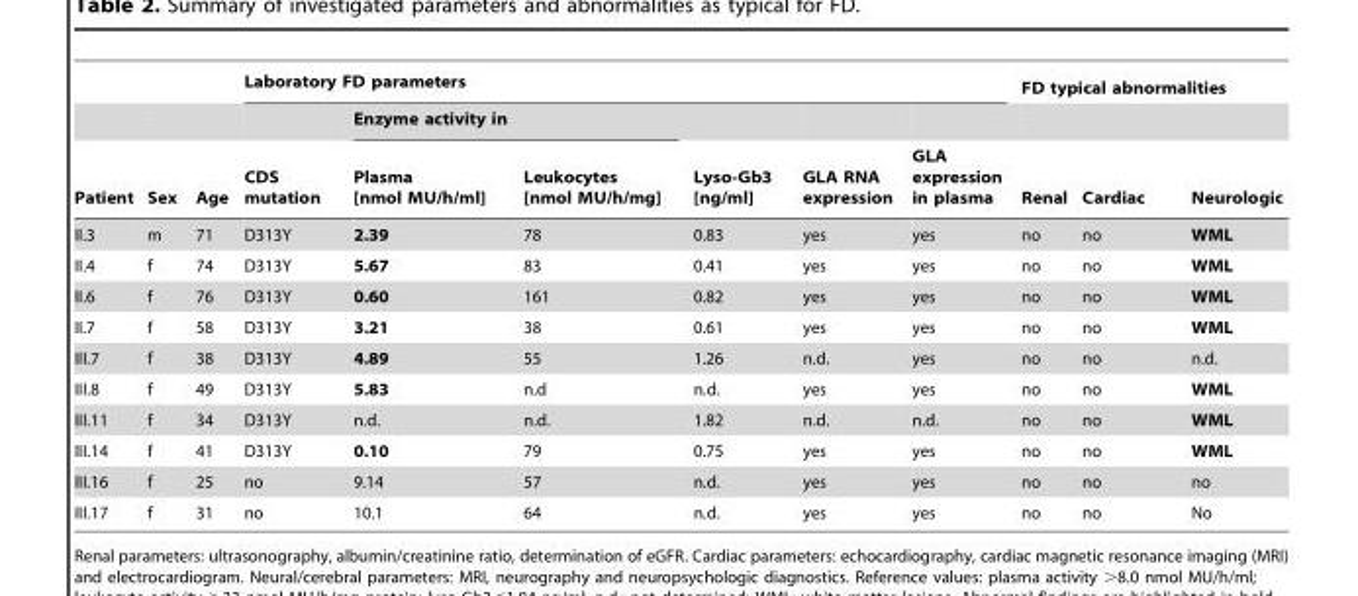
<table><thead><tr><td rowspan="3">Patient</td><td rowspan="3">Sex</td><td rowspan="3">Age</td><td colspan="6">Laboratory FD parameters</td><td colspan="3">FD typical abnormalities</td></tr><tr><td rowspan="2">CDS mutation</td><td colspan="2">Enzyme activity in</td><td rowspan="2">Lyso-Gb3 [ng/ml]</td><td rowspan="2">GLA RNA expression</td><td rowspan="2">GLA expression in plasma</td><td rowspan="2">Renal</td><td rowspan="2">Cardiac</td><td rowspan="2">Neurologic</td></tr><tr><td>Plasma [nmol MU/h/ml]</td><td>Leukocytes [nmol MU/h/mg]</td></tr></thead><tbody><tr><td>II.3</td><td>m</td><td>71</td><td>D313Y</td><td>2.39</td><td>78</td><td>0.83</td><td>yes</td><td>yes</td><td>no</td><td>no</td><td>WML</td></tr><tr><td>II.4</td><td>f</td><td>74</td><td>D313Y</td><td>5.67</td><td>83</td><td>0.41</td><td>yes</td><td>yes</td><td>no</td><td>no</td><td>WML</td></tr><tr><td>II.6</td><td>f</td><td>76</td><td>D313Y</td><td>0.60</td><td>161</td><td>0.82</td><td>yes</td><td>yes</td><td>no</td><td>no</td><td>WML</td></tr><tr><td>II.7</td><td>f</td><td>58</td><td>D313Y</td><td>3.21</td><td>38</td><td>0.61</td><td>yes</td><td>yes</td><td>no</td><td>no</td><td>WML</td></tr><tr><td>III.7</td><td>f</td><td>38</td><td>D313Y</td><td>4.89</td><td>55</td><td>1.26</td><td>n.d.</td><td>yes</td><td>no</td><td>no</td><td>n.d.</td></tr><tr><td>III.8</td><td>f</td><td>49</td><td>D313Y</td><td>5.83</td><td>n.d</td><td>n.d.</td><td>yes</td><td>yes</td><td>no</td><td>no</td><td>WML</td></tr><tr><td>III.11</td><td>f</td><td>34</td><td>D313Y</td><td>n.d.</td><td>n.d.</td><td>1.82</td><td>n.d.</td><td>n.d.</td><td>no</td><td>no</td><td>WML</td></tr><tr><td>III.14</td><td>f</td><td>41</td><td>D313Y</td><td>0.10</td><td>79</td><td>0.75</td><td>yes</td><td>yes</td><td>no</td><td>no</td><td>WML</td></tr><tr><td>III.16</td><td>f</td><td>25</td><td>no</td><td>9.14</td><td>57</td><td>n.d.</td><td>yes</td><td>yes</td><td>no</td><td>no</td><td>no</td></tr><tr><td>III.17</td><td>f</td><td>31</td><td>no</td><td>10.1</td><td>64</td><td>n.d.</td><td>yes</td><td>yes</td><td>no</td><td>no</td><td>No</td></tr></tbody></table>